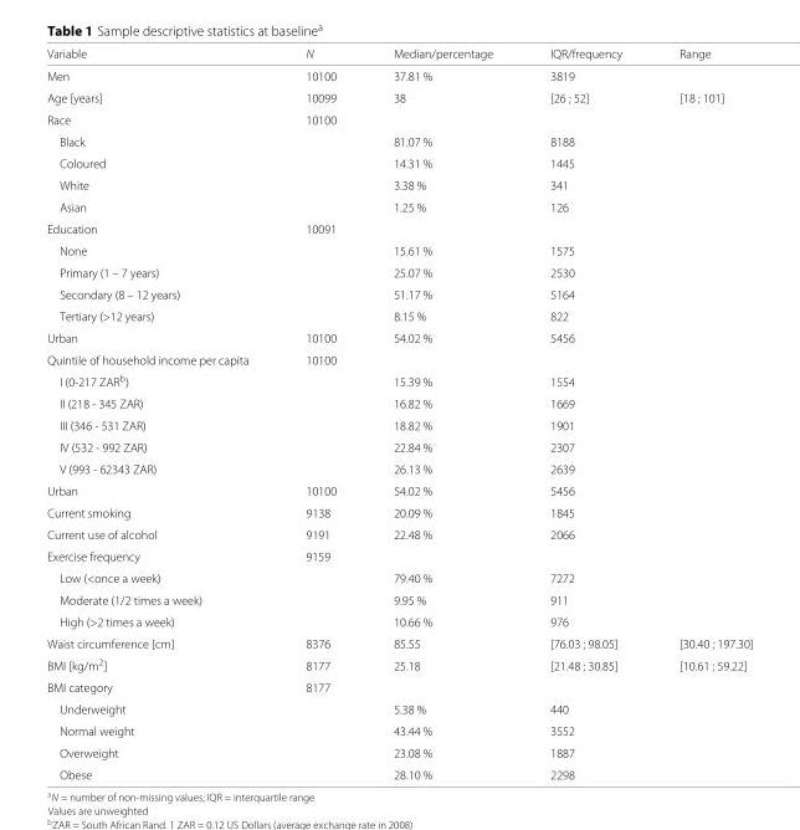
<table><thead><tr><td>Variable</td><td>N</td><td>Median/percentage</td><td>IQR/frequency</td><td>Range</td></tr></thead><tbody><tr><td>Men</td><td>10100</td><td>37.81 %</td><td>3819</td><td></td></tr><tr><td>Age [years]</td><td>10099</td><td>38</td><td>[26 ; 52]</td><td>[18 ; 101]</td></tr><tr><td>Race</td><td>10100</td><td></td><td></td><td></td></tr><tr><td>Black</td><td></td><td>81.07 %</td><td>8188</td><td></td></tr><tr><td>Coloured</td><td></td><td>14.31 %</td><td>1445</td><td></td></tr><tr><td>White</td><td></td><td>3.38 %</td><td>341</td><td></td></tr><tr><td>Asian</td><td></td><td>1.25 %</td><td>126</td><td></td></tr><tr><td>Education</td><td>10091</td><td></td><td></td><td></td></tr><tr><td>None</td><td></td><td>15.61 %</td><td>1575</td><td></td></tr><tr><td>Primary (1 – 7 years)</td><td></td><td>25.07 %</td><td>2530</td><td></td></tr><tr><td>Secondary (8 – 12 years)</td><td></td><td>51.17 %</td><td>5164</td><td></td></tr><tr><td>Tertiary (&gt;12 years)</td><td></td><td>8.15 %</td><td>822</td><td></td></tr><tr><td>Urban</td><td>10100</td><td>54.02 %</td><td>5456</td><td></td></tr><tr><td>Quintile of household income per capita</td><td>10100</td><td></td><td></td><td></td></tr><tr><td>I (0-217 ZAR<sup>b</sup>)</td><td></td><td>15.39 %</td><td>1554</td><td></td></tr><tr><td>II (218 - 345 ZAR)</td><td></td><td>16.82 %</td><td>1669</td><td></td></tr><tr><td>III (346 - 531 ZAR)</td><td></td><td>18.82 %</td><td>1901</td><td></td></tr><tr><td>IV (532 - 992 ZAR)</td><td></td><td>22.84 %</td><td>2307</td><td></td></tr><tr><td>V (993 - 62343 ZAR)</td><td></td><td>26.13 %</td><td>2639</td><td></td></tr><tr><td>Urban</td><td>10100</td><td>54.02 %</td><td>5456</td><td></td></tr><tr><td>Current smoking</td><td>9138</td><td>20.09 %</td><td>1845</td><td></td></tr><tr><td>Current use of alcohol</td><td>9191</td><td>22.48 %</td><td>2066</td><td></td></tr><tr><td>Exercise frequency</td><td>9159</td><td></td><td></td><td></td></tr><tr><td>Low (&lt;once a week)</td><td></td><td>79.40 %</td><td>7272</td><td></td></tr><tr><td>Moderate (1/2 times a week)</td><td></td><td>9.95 %</td><td>911</td><td></td></tr><tr><td>High (&gt;2 times a week)</td><td></td><td>10.66 %</td><td>976</td><td></td></tr><tr><td>Waist circumference [cm]</td><td>8376</td><td>85.55</td><td>[76.03 ; 98.05]</td><td>[30.40 ; 197.30]</td></tr><tr><td>BMI [kg/m<sup>2</sup>]</td><td>8177</td><td>25.18</td><td>[21.48 ; 30.85]</td><td>[10.61 ; 59.22]</td></tr><tr><td>BMI category</td><td>8177</td><td></td><td></td><td></td></tr><tr><td>Underweight</td><td></td><td>5.38 %</td><td>440</td><td></td></tr><tr><td>Normal weight</td><td></td><td>43.44 %</td><td>3552</td><td></td></tr><tr><td>Overweight</td><td></td><td>23.08 %</td><td>1887</td><td></td></tr><tr><td>Obese</td><td></td><td>28.10 %</td><td>2298</td><td></td></tr></tbody></table>